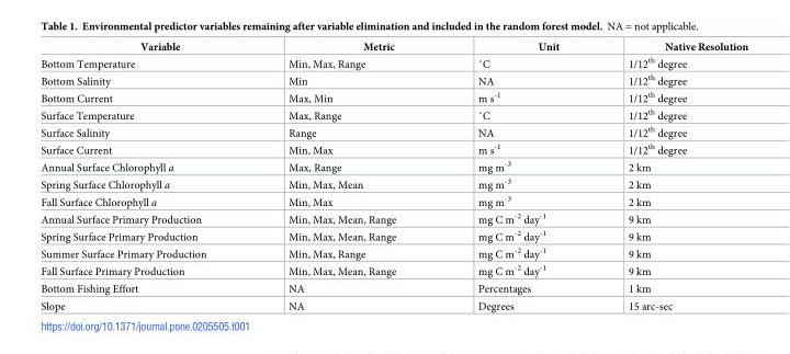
<table><thead><tr><td>Variable</td><td>Metric</td><td>Unit</td><td>Native Resolution</td></tr></thead><tbody><tr><td>Bottom Temperature</td><td>Min, Max, Range</td><td>˚C</td><td>1/12<sup>th</sup> degree</td></tr><tr><td>Bottom Salinity</td><td>Min</td><td>NA</td><td>1/12<sup>th</sup> degree</td></tr><tr><td>Bottom Current</td><td>Max, Min</td><td>m s<sup>-1</sup></td><td>1/12<sup>th</sup> degree</td></tr><tr><td>Surface Temperature</td><td>Max, Range</td><td>˚C</td><td>1/12<sup>th</sup> degree</td></tr><tr><td>Surface Salinity</td><td>Range</td><td>NA</td><td>1/12<sup>th</sup> degree</td></tr><tr><td>Surface Current</td><td>Min, Max</td><td>m s<sup>-1</sup></td><td>1/12<sup>th</sup> degree</td></tr><tr><td>Annual Surface Chlorophyll a</td><td>Max, Range</td><td>mg m<sup>-3</sup></td><td>2 km</td></tr><tr><td>Spring Surface Chlorophyll a</td><td>Min, Max, Mean</td><td>mg m<sup>-3</sup></td><td>2 km</td></tr><tr><td>Fall Surface Chlorophyll a</td><td>Min, Max</td><td>mg m<sup>-3</sup></td><td>2 km</td></tr><tr><td>Annual Surface Primary Production</td><td>Min, Max, Mean, Range</td><td>mg C m<sup>-2</sup> day<sup>-1</sup></td><td>9 km</td></tr><tr><td>Spring Surface Primary Production</td><td>Min, Max, Mean, Range</td><td>mg C m<sup>-2</sup> day<sup>-1</sup></td><td>9 km</td></tr><tr><td>Summer Surface Primary Production</td><td>Min, Max, Range</td><td>mg C m<sup>-2</sup> day<sup>-1</sup></td><td>9 km</td></tr><tr><td>Fall Surface Primary Production</td><td>Min, Max, Mean, Range</td><td>mg C m<sup>-2</sup> day<sup>-1</sup></td><td>9 km</td></tr><tr><td>Bottom Fishing Effort</td><td>NA</td><td>Percentages</td><td>1 km</td></tr><tr><td>Slope</td><td>NA</td><td>Degrees</td><td>15 arc-sec</td></tr></tbody></table>